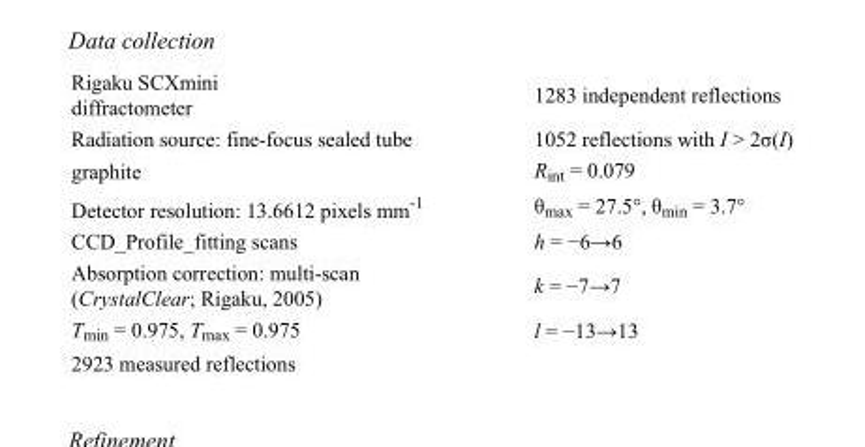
<table><tbody><tr><td>Rigaku SCXmini diffractometer</td><td>1283 independent reflections</td></tr><tr><td>Radiation source: fine-focus sealed tube</td><td>1052 reflections with I &gt; 2σ(I)</td></tr><tr><td>graphite</td><td>R<sub>int</sub> = 0.079</td></tr><tr><td>Detector resolution: 13.6612 pixels mm<sup>-1</sup></td><td>θ<sub>max</sub> = 27.5°, θ<sub>min</sub> = 3.7°</td></tr><tr><td>CCD_Profile_fitting scans</td><td>h = −6→6</td></tr><tr><td>Absorption correction: multi-scan (CrystalClear; Rigaku, 2005)</td><td>k = −7→7</td></tr><tr><td>T<sub>min</sub> = 0.975, T<sub>max</sub> = 0.975</td><td>l = −13→13</td></tr><tr><td>2923 measured reflections</td><td></td></tr></tbody></table>